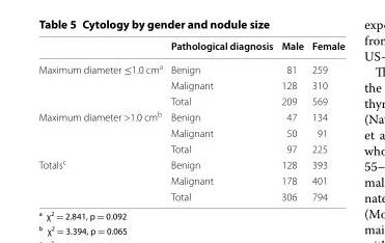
<table><thead><tr><td></td><td>Pathological diagnosis</td><td>Male</td><td>Female</td></tr></thead><tbody><tr><td rowspan="3">Maximum diameter ≤1.0 cm<sup>a</sup></td><td>Benign</td><td>81</td><td>259</td></tr><tr><td>Malignant</td><td>128</td><td>310</td></tr><tr><td>Total</td><td>209</td><td>569</td></tr><tr><td rowspan="3">Maximum diameter &gt;1.0 cm<sup>b</sup></td><td>Benign</td><td>47</td><td>134</td></tr><tr><td>Malignant</td><td>50</td><td>91</td></tr><tr><td>Total</td><td>97</td><td>225</td></tr><tr><td rowspan="3">Totals<sup>c</sup></td><td>Benign</td><td>128</td><td>393</td></tr><tr><td>Malignant</td><td>178</td><td>401</td></tr><tr><td>Total</td><td>306</td><td>794</td></tr></tbody></table>